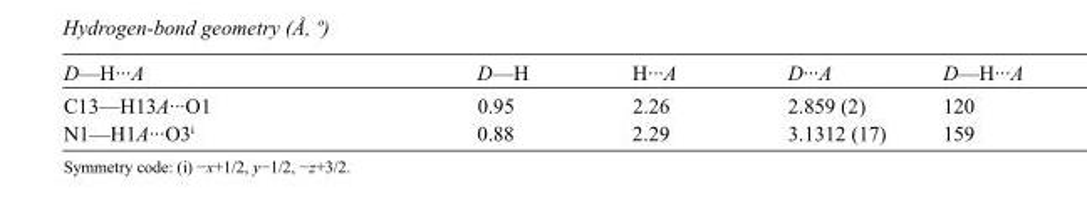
<table><tbody><tr><td>D—H···A</td><td>D—H</td><td>H···A</td><td>D···A</td><td>D—H···A</td></tr><tr><td>C13—H13A···O1</td><td>0.95</td><td>2.26</td><td>2.859 (2)</td><td>120</td></tr><tr><td>N1—H1A···O3<sup>i</sup></td><td>0.88</td><td>2.29</td><td>3.1312 (17)</td><td>159</td></tr></tbody></table>